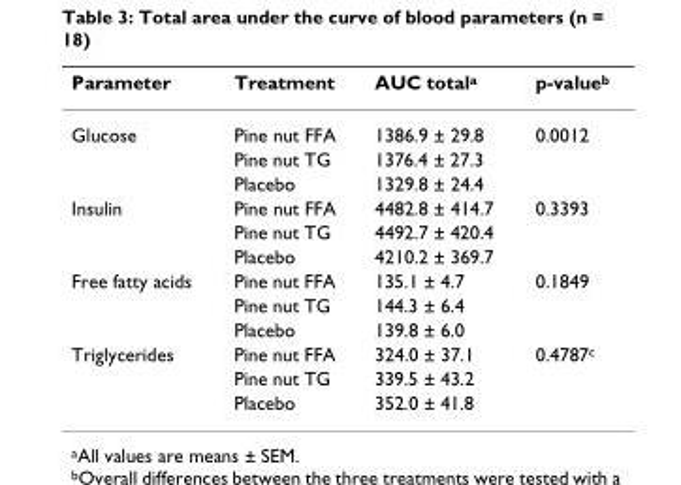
<table><thead><tr><td>Parameter</td><td>Treatment</td><td>AUC total<sup>a</sup></td><td>p-value<sup>b</sup></td></tr></thead><tbody><tr><td rowspan="3">Glucose</td><td>Pine nut FFA</td><td>1386.9 ± 29.8</td><td>0.0012</td></tr><tr><td>Pine nut TG</td><td>1376.4 ± 27.3</td><td></td></tr><tr><td>Placebo</td><td>1329.8 ± 24.4</td><td></td></tr><tr><td rowspan="3">Insulin</td><td>Pine nut FFA</td><td>4482.8 ± 414.7</td><td>0.3393</td></tr><tr><td>Pine nut TG</td><td>4492.7 ± 420.4</td><td></td></tr><tr><td>Placebo</td><td>4210.2 ± 369.7</td><td></td></tr><tr><td rowspan="3">Free fatty acids</td><td>Pine nut FFA</td><td>135.1 ± 4.7</td><td>0.1849</td></tr><tr><td>Pine nut TG</td><td>144.3 ± 6.4</td><td></td></tr><tr><td>Placebo</td><td>139.8 ± 6.0</td><td></td></tr><tr><td rowspan="3">Triglycerides</td><td>Pine nut FFA</td><td>324.0 ± 37.1</td><td>0.4787<sup>c</sup></td></tr><tr><td>Pine nut TG</td><td>339.5 ± 43.2</td><td></td></tr><tr><td>Placebo</td><td>352.0 ± 41.8</td><td></td></tr></tbody></table>